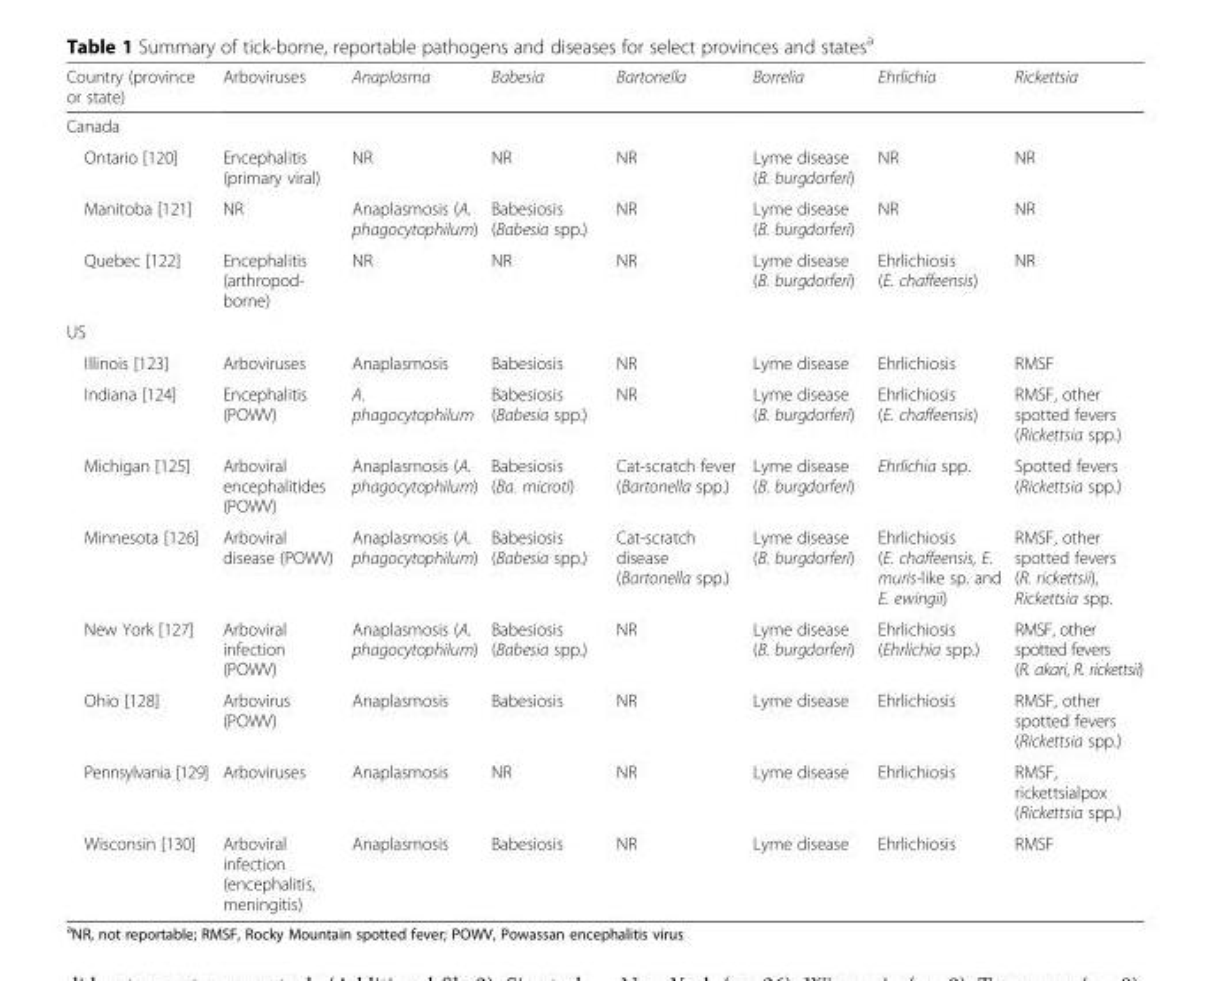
<table><thead><tr><td>Country (province or state)</td><td>Arboviruses</td><td>Anaplasma</td><td>Babesia</td><td>Bartonella</td><td>Borrelia</td><td>Ehrlichia</td><td>Rickettsia</td></tr></thead><tbody><tr><td colspan="8">Canada</td></tr><tr><td>Ontario [120]</td><td>Encephalitis (primary viral)</td><td>NR</td><td>NR</td><td>NR</td><td>Lyme disease (B. burgdorferi)</td><td>NR</td><td>NR</td></tr><tr><td>Manitoba [121]</td><td>NR</td><td>Anaplasmosis (A. phagocytophilum)</td><td>Babesiosis (Babesia spp.)</td><td>NR</td><td>Lyme disease (B. burgdorferi)</td><td>NR</td><td>NR</td></tr><tr><td>Quebec [122]</td><td>Encephalitis (arthropod- borne)</td><td>NR</td><td>NR</td><td>NR</td><td>Lyme disease (B. burgdorferi)</td><td>Ehrlichiosis (E. chaffeensis)</td><td>NR</td></tr><tr><td colspan="8">US</td></tr><tr><td>Illinois [123]</td><td>Arboviruses</td><td>Anaplasmosis</td><td>Babesiosis</td><td>NR</td><td>Lyme disease</td><td>Ehrlichiosis</td><td>RMSF</td></tr><tr><td>Indiana [124]</td><td>Encephalitis (POWV)</td><td>A. phagocytophilum</td><td>Babesiosis (Babesia spp.)</td><td>NR</td><td>Lyme disease (B. burgdorferi)</td><td>Ehrlichiosis (E. chaffeensis)</td><td>RMSF, other spotted fevers (Rickettsia spp.)</td></tr><tr><td>Michigan [125]</td><td>Arboviral encephalitides (POWV)</td><td>Anaplasmosis (A. phagocytophilum)</td><td>Babesiosis (Ba. microti)</td><td>Cat-scratch fever (Bartonella spp.)</td><td>Lyme disease (B. burgdorferi)</td><td>Ehrlichia spp.</td><td>Spotted fevers (Rickettsia spp.)</td></tr><tr><td>Minnesota [126]</td><td>Arboviral disease (POWV)</td><td>Anaplasmosis (A. phagocytophilum)</td><td>Babesiosis (Babesia spp.)</td><td>Cat-scratch disease (Bartonella spp.)</td><td>Lyme disease (B. burgdorferi)</td><td>Ehrlichiosis (E. chaffeensis, E. muris-like sp. and E. ewingii)</td><td>RMSF, other spotted fevers (R. rickettsii), Rickettsia spp.</td></tr><tr><td>New York [127]</td><td>Arboviral infection (POWV)</td><td>Anaplasmosis (A. phagocytophilum)</td><td>Babesiosis (Babesia spp.)</td><td>NR</td><td>Lyme disease (B. burgdorferi)</td><td>Ehrlichiosis (Ehrlichia spp.)</td><td>RMSF, other spotted fevers (R. akari, R. rickettsii)</td></tr><tr><td>Ohio [128]</td><td>Arbovirus (POWV)</td><td>Anaplasmosis</td><td>Babesiosis</td><td>NR</td><td>Lyme disease</td><td>Ehrlichiosis</td><td>RMSF, other spotted fevers (Rickettsia spp.)</td></tr><tr><td>Pennsylvania [129]</td><td>Arboviruses</td><td>Anaplasmosis</td><td>NR</td><td>NR</td><td>Lyme disease</td><td>Ehrlichiosis</td><td>RMSF, rickettsialpox (Rickettsia spp.)</td></tr><tr><td>Wisconsin [130]</td><td>Arboviral infection (encephalitis, meningitis)</td><td>Anaplasmosis</td><td>Babesiosis</td><td>NR</td><td>Lyme disease</td><td>Ehrlichiosis</td><td>RMSF</td></tr></tbody></table>